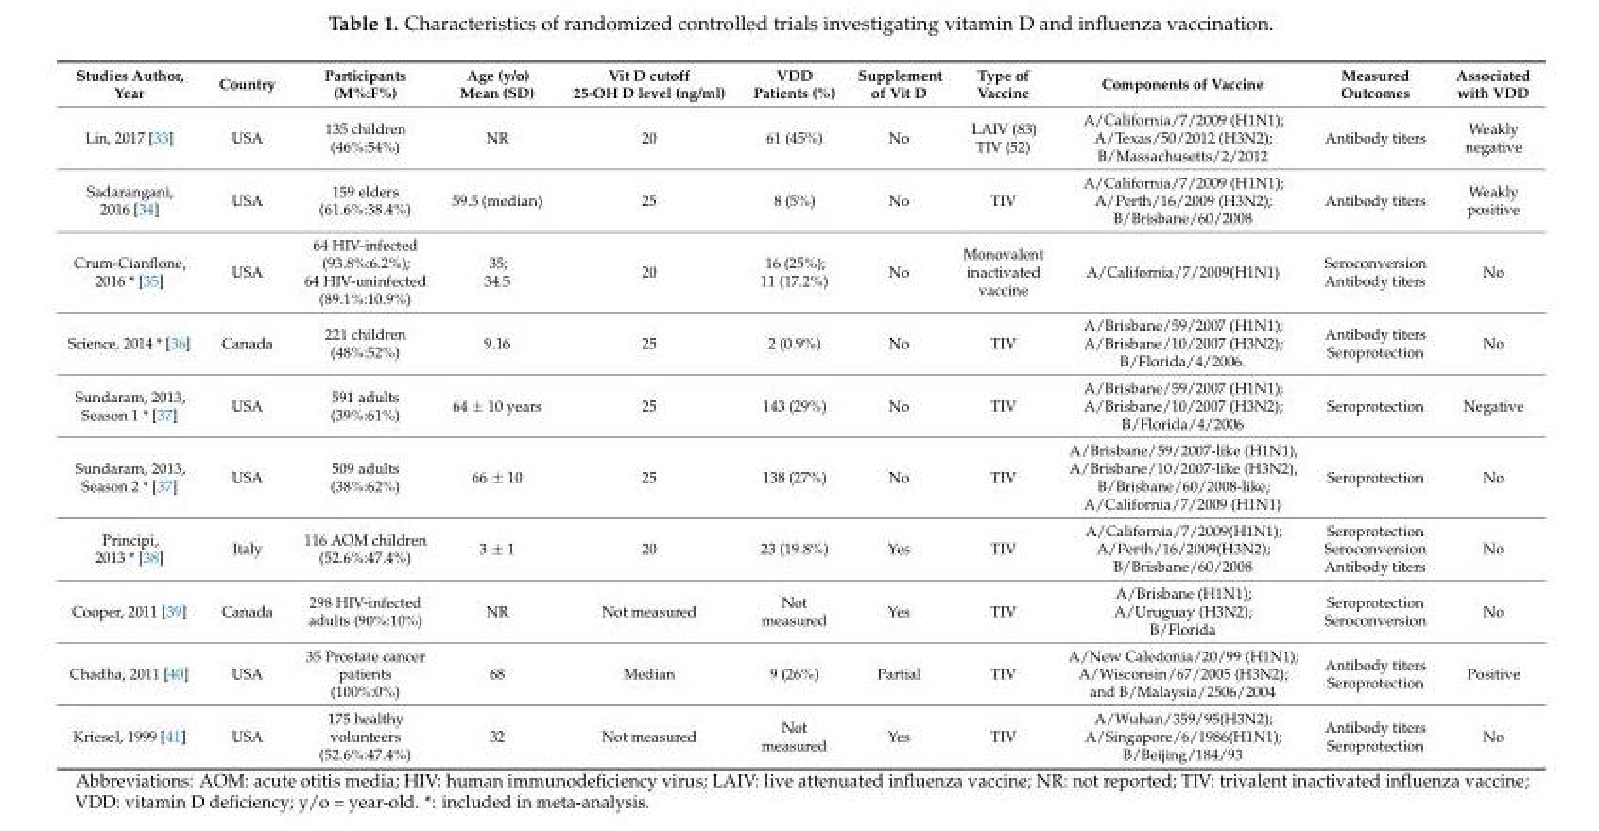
<table><thead><tr><td>Studies Author, Year</td><td>Country</td><td>Participants (M%:F%)</td><td>Age (y/o) Mean (SD)</td><td>Vit D cutoff 25-OH D level (ng/ml)</td><td>VDD Patients (%)</td><td>Supplement of Vit D</td><td>Type of Vaccine</td><td>Components of Vaccine</td><td>Measured Outcomes</td><td>Associated with VDD</td></tr></thead><tbody><tr><td>Lin, 2017 [33]</td><td>USA</td><td>135 children (46%:54%)</td><td>NR</td><td>20</td><td>61 (45%)</td><td>No</td><td>LAIV (83) TIV (52)</td><td>A/California/7/2009 (H1N1); A/Texas/50/2012 (H3N2); B/Massachusetts/2/2012</td><td>Antibody titers</td><td>Weakly negative</td></tr><tr><td>Sadarangani, 2016 [34]</td><td>USA</td><td>159 elders (61.6%:38.4%)</td><td>59.5 (median)</td><td>25</td><td>8 (5%)</td><td>No</td><td>TIV</td><td>A/California/7/2009 (H1N1); A/Perth/16/2009 (H3N2); B/Brisbane/60/2008</td><td>Antibody titers</td><td>Weakly positive</td></tr><tr><td>Crum-Cianflone, 2016 * [35]</td><td>USA</td><td>64 HIV-infected (93.8%:6.2%); 64 HIV-uninfected (89.1%:10.9%)</td><td>35; 34.5</td><td>20</td><td>16 (25%); 11 (17.2%)</td><td>No</td><td>Monovalent inactivated vaccine</td><td>A/California/7/2009(H1N1)</td><td>Seroconversion Antibody titers</td><td>No</td></tr><tr><td>Science, 2014 * [36]</td><td>Canada</td><td>221 children (48%:52%)</td><td>9.16</td><td>25</td><td>2 (0.9%)</td><td>No</td><td>TIV</td><td>A/Brisbane/59/2007 (H1N1); A/Brisbane/10/2007 (H3N2); B/Florida/4/2006.</td><td>Antibody titers Seroprotection</td><td>No</td></tr><tr><td>Sundaram, 2013, Season 1 * [37]</td><td>USA</td><td>591 adults (39%:61%)</td><td>64 ± 10 years</td><td>25</td><td>143 (29%)</td><td>No</td><td>TIV</td><td>A/Brisbane/59/2007 (H1N1); A/Brisbane/10/2007 (H3N2); B/Florida/4/2006</td><td>Seroprotection</td><td>Negative</td></tr><tr><td>Sundaram, 2013, Season 2 * [37]</td><td>USA</td><td>509 adults (38%:62%)</td><td>66 ± 10</td><td>25</td><td>138 (27%)</td><td>No</td><td>TIV</td><td>A/Brisbane/59/2007-like (H1N1), A/Brisbane/10/2007-like (H3N2), B/Brisbane/60/2008-like; A/California/7/2009 (H1N1)</td><td>Seroprotection</td><td>No</td></tr><tr><td>Principi, 2013 * [38]</td><td>Italy</td><td>116 AOM children (52.6%:47.4%)</td><td>3 ± 1</td><td>20</td><td>23 (19.8%)</td><td>Yes</td><td>TIV</td><td>A/California/7/2009(H1N1); A/Perth/16/2009(H3N2); B/Brisbane/60/2008</td><td>Seroprotection Seroconversion Antibody titers</td><td>No</td></tr><tr><td>Cooper, 2011 [39]</td><td>Canada</td><td>298 HIV-infected adults (90%:10%)</td><td>NR</td><td>Not measured</td><td>Not measured</td><td>Yes</td><td>TIV</td><td>A/Brisbane (H1N1); A/Uruguay (H3N2); B/Florida</td><td>Seroprotection Seroconversion</td><td>No</td></tr><tr><td>Chadha, 2011 [40]</td><td>USA</td><td>35 Prostate cancer patients (100%:0%)</td><td>68</td><td>Median</td><td>9 (26%)</td><td>Partial</td><td>TIV</td><td>A/New Caledonia/20/99 (H1N1); A/Wisconsin/67/2005 (H3N2); and B/Malaysia/2506/2004</td><td>Antibody titers Seroprotection</td><td>Positive</td></tr><tr><td>Kriesel, 1999 [41]</td><td>USA</td><td>175 healthy volunteers (52.6%:47.4%)</td><td>32</td><td>Not measured</td><td>Not measured</td><td>Yes</td><td>TIV</td><td>A/Wuhan/359/95(H3N2); A/Singapore/6/1986(H1N1); B/Beijing/184/93</td><td>Antibody titers Seroprotection</td><td>No</td></tr></tbody></table>